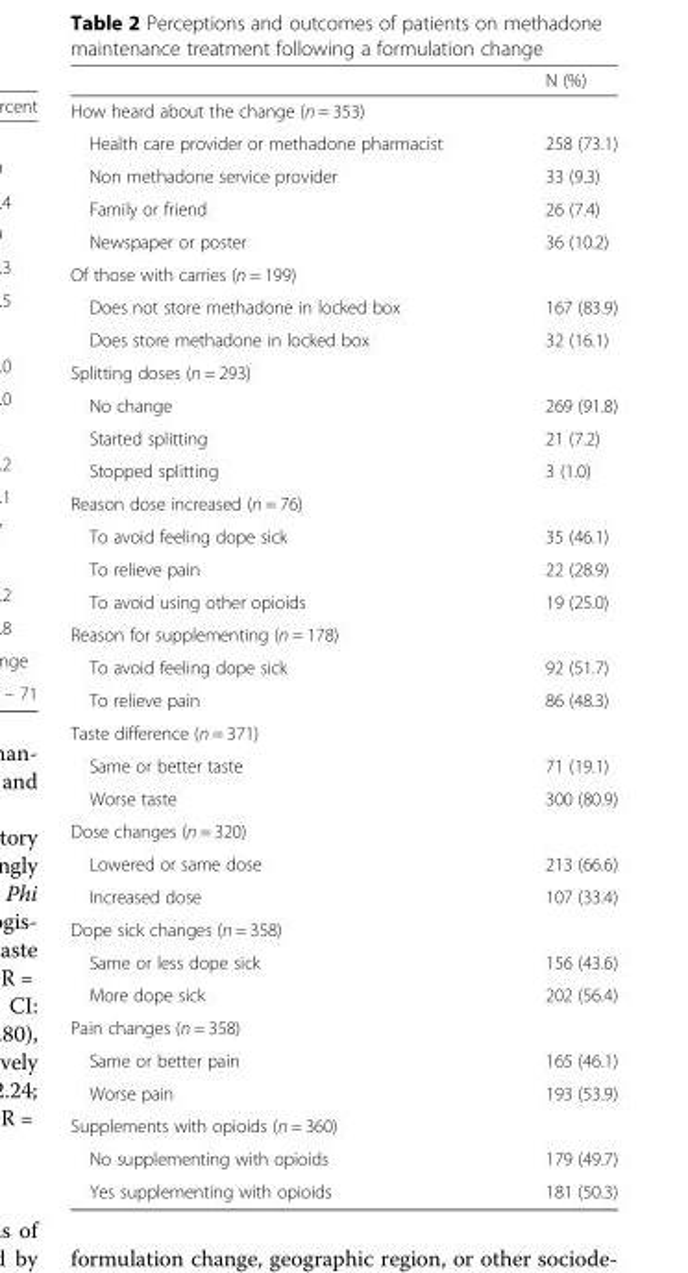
<table><thead><tr><td></td><td>N (%)</td></tr></thead><tbody><tr><td colspan="2">How heard about the change (n = 353)</td></tr><tr><td>Health care provider or methadone pharmacist</td><td>258 (73.1)</td></tr><tr><td>Non methadone service provider</td><td>33 (9.3)</td></tr><tr><td>Family or friend</td><td>26 (7.4)</td></tr><tr><td>Newspaper or poster</td><td>36 (10.2)</td></tr><tr><td colspan="2">Of those with carries (n = 199)</td></tr><tr><td>Does not store methadone in locked box</td><td>167 (83.9)</td></tr><tr><td>Does store methadone in locked box</td><td>32 (16.1)</td></tr><tr><td colspan="2">Splitting doses (n = 293)</td></tr><tr><td>No change</td><td>269 (91.8)</td></tr><tr><td>Started splitting</td><td>21 (7.2)</td></tr><tr><td>Stopped splitting</td><td>3 (1.0)</td></tr><tr><td colspan="2">Reason dose increased (n = 76)</td></tr><tr><td>To avoid feeling dope sick</td><td>35 (46.1)</td></tr><tr><td>To relieve pain</td><td>22 (28.9)</td></tr><tr><td>To avoid using other opioids</td><td>19 (25.0)</td></tr><tr><td colspan="2">Reason for supplementing (n = 178)</td></tr><tr><td>To avoid feeling dope sick</td><td>92 (51.7)</td></tr><tr><td>To relieve pain</td><td>86 (48.3)</td></tr><tr><td colspan="2">Taste difference (n = 371)</td></tr><tr><td>Same or better taste</td><td>71 (19.1)</td></tr><tr><td>Worse taste</td><td>300 (80.9)</td></tr><tr><td colspan="2">Dose changes (n = 320)</td></tr><tr><td>Lowered or same dose</td><td>213 (66.6)</td></tr><tr><td>Increased dose</td><td>107 (33.4)</td></tr><tr><td colspan="2">Dope sick changes (n = 358)</td></tr><tr><td>Same or less dope sick</td><td>156 (43.6)</td></tr><tr><td>More dope sick</td><td>202 (56.4)</td></tr><tr><td colspan="2">Pain changes (n = 358)</td></tr><tr><td>Same or better pain</td><td>165 (46.1)</td></tr><tr><td>Worse pain</td><td>193 (53.9)</td></tr><tr><td colspan="2">Supplements with opioids (n = 360)</td></tr><tr><td>No supplementing with opioids</td><td>179 (49.7)</td></tr><tr><td>Yes supplementing with opioids</td><td>181 (50.3)</td></tr></tbody></table>